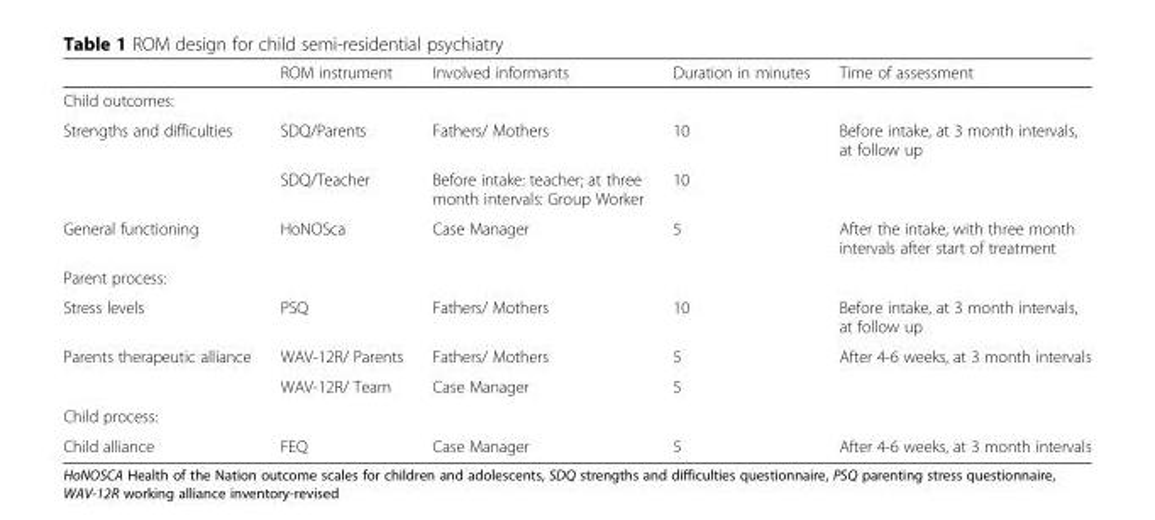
<table><thead><tr><td></td><td>ROM instrument</td><td>Involved informants</td><td>Duration in minutes</td><td>Time of assessment</td></tr></thead><tbody><tr><td colspan="5">Child outcomes:</td></tr><tr><td rowspan="2">Strengths and difficulties</td><td>SDQ/Parents</td><td>Fathers/ Mothers</td><td>10</td><td>Before intake, at 3 month intervals, at follow up</td></tr><tr><td>SDQ/Teacher</td><td>Before intake: teacher; at three month intervals: Group Worker</td><td>10</td><td></td></tr><tr><td>General functioning</td><td>HoNOSca</td><td>Case Manager</td><td>5</td><td>After the intake, with three month intervals after start of treatment</td></tr><tr><td colspan="5">Parent process:</td></tr><tr><td>Stress levels</td><td>PSQ</td><td>Fathers/ Mothers</td><td>10</td><td>Before intake, at 3 month intervals, at follow up</td></tr><tr><td rowspan="2">Parents therapeutic alliance</td><td>WAV-12R/ Parents</td><td>Fathers/ Mothers</td><td>5</td><td>After 4-6 weeks, at 3 month intervals</td></tr><tr><td>WAV-12R/ Team</td><td>Case Manager</td><td>5</td><td></td></tr><tr><td colspan="5">Child process:</td></tr><tr><td>Child alliance</td><td>FEQ</td><td>Case Manager</td><td>5</td><td>After 4-6 weeks, at 3 month intervals</td></tr></tbody></table>